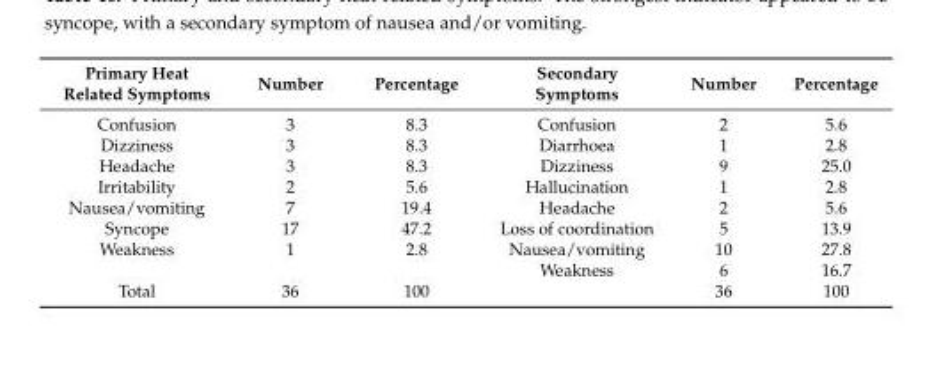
<table><thead><tr><td>Primary Heat Related Symptoms</td><td>Number</td><td>Percentage</td><td>Secondary Symptoms</td><td>Number</td><td>Percentage</td></tr></thead><tbody><tr><td>Confusion</td><td>3</td><td>8.3</td><td>Confusion</td><td>2</td><td>5.6</td></tr><tr><td>Dizziness</td><td>3</td><td>8.3</td><td>Diarrhoea</td><td>1</td><td>2.8</td></tr><tr><td>Headache</td><td>3</td><td>8.3</td><td>Dizziness</td><td>9</td><td>25.0</td></tr><tr><td>Irritability</td><td>2</td><td>5.6</td><td>Hallucination</td><td>1</td><td>2.8</td></tr><tr><td>Nausea/vomiting</td><td>7</td><td>19.4</td><td>Headache</td><td>2</td><td>5.6</td></tr><tr><td>Syncope</td><td>17</td><td>47.2</td><td>Loss of coordination</td><td>5</td><td>13.9</td></tr><tr><td rowspan="2">Weakness</td><td>1</td><td>2.8</td><td>Nausea/vomiting</td><td>10</td><td>27.8</td></tr><tr><td></td><td></td><td>Weakness</td><td>6</td><td>16.7</td></tr><tr><td>Total</td><td>36</td><td>100</td><td></td><td>36</td><td>100</td></tr></tbody></table>